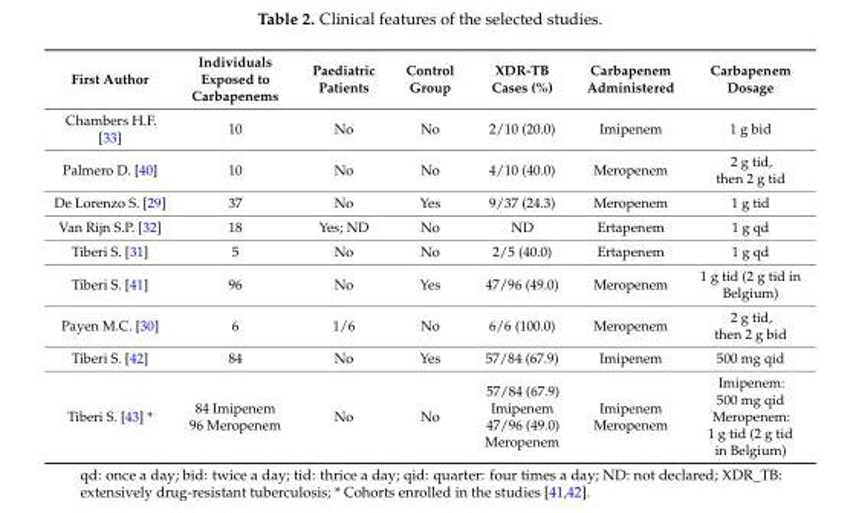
<table><thead><tr><td>First Author</td><td>Individuals Exposed to Carbapenems</td><td>Paediatric Patients</td><td>Control Group</td><td>XDR-TB Cases (%)</td><td>Carbapenem Administered</td><td>Carbapenem Dosage</td></tr></thead><tbody><tr><td>Chambers H.F. [33]</td><td>10</td><td>No</td><td>No</td><td>2/10 (20.0)</td><td>Imipenem</td><td>1 g bid</td></tr><tr><td>Palmero D. [40]</td><td>10</td><td>No</td><td>No</td><td>4/10 (40.0)</td><td>Meropenem</td><td>2 g tid, then 2 g tid</td></tr><tr><td>De Lorenzo S. [29]</td><td>37</td><td>No</td><td>Yes</td><td>9/37 (24.3)</td><td>Meropenem</td><td>1 g tid</td></tr><tr><td>Van Rijn S.P. [32]</td><td>18</td><td>Yes; ND</td><td>No</td><td>ND</td><td>Ertapenem</td><td>1 g qd</td></tr><tr><td>Tiberi S. [31]</td><td>5</td><td>No</td><td>No</td><td>2/5 (40.0)</td><td>Ertapenem</td><td>1 g qd</td></tr><tr><td>Tiberi S. [41]</td><td>96</td><td>No</td><td>Yes</td><td>47/96 (49.0)</td><td>Meropenem</td><td>1 g tid (2 g tid in Belgium)</td></tr><tr><td>Payen M.C. [30]</td><td>6</td><td>1/6</td><td>No</td><td>6/6 (100.0)</td><td>Meropenem</td><td>2 g tid, then 2 g bid</td></tr><tr><td>Tiberi S. [42]</td><td>84</td><td>No</td><td>Yes</td><td>57/84 (67.9)</td><td>Imipenem</td><td>500 mg qid</td></tr><tr><td>Tiberi S. [43] *</td><td>84 Imipenem 96 Meropenem</td><td>No</td><td>No</td><td>57/84 (67.9) Imipenem 47/96 (49.0) Meropenem</td><td>Imipenem Meropenem</td><td>Imipenem: 500 mg qid Meropenem: 1 g tid (2 g tid in Belgium)</td></tr></tbody></table>